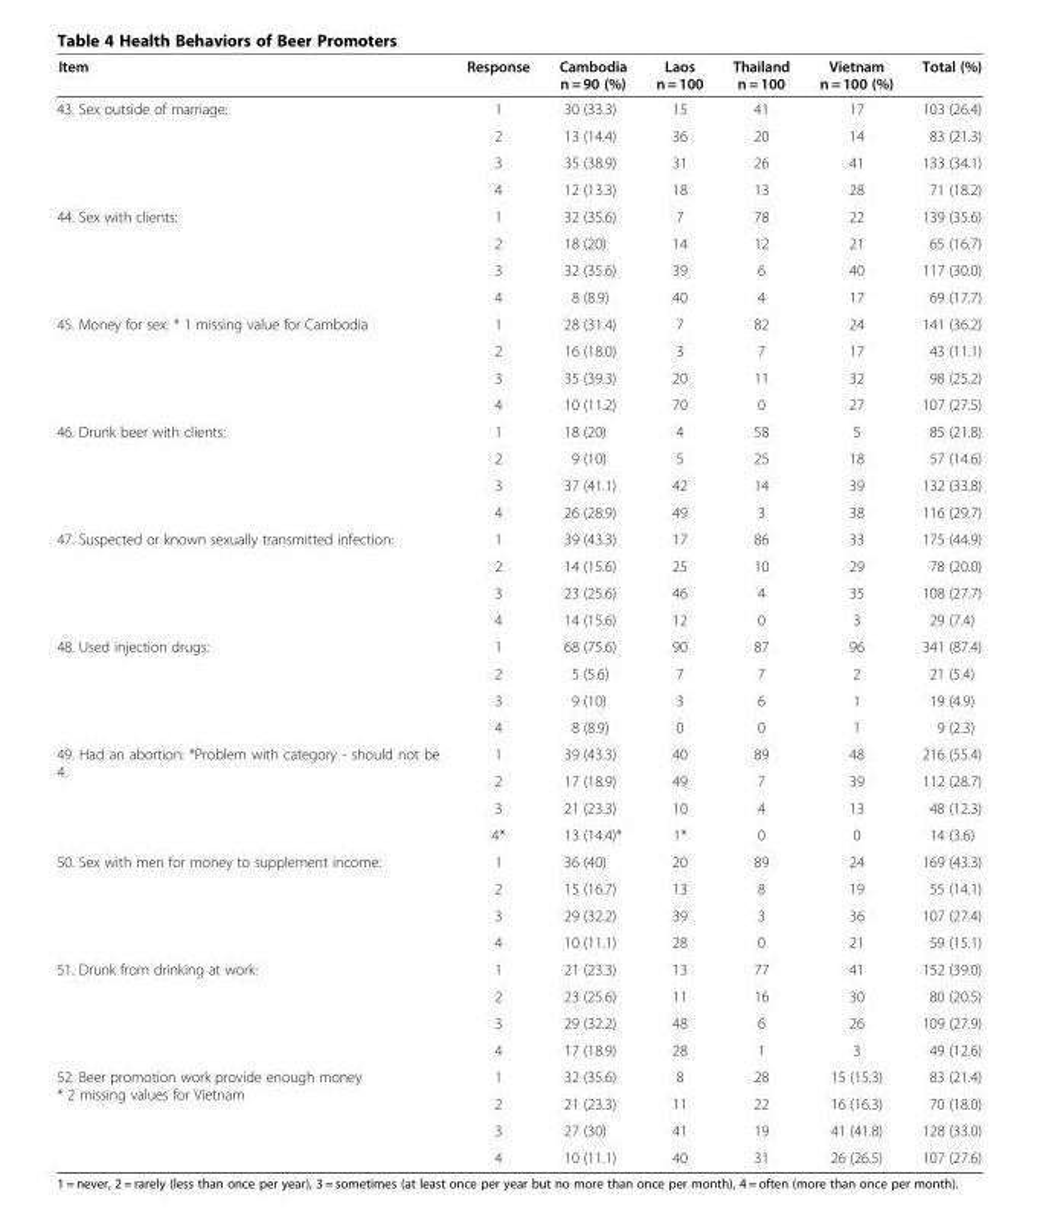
<table><thead><tr><td>Item</td><td>Response</td><td>Cambodia n = 90 (%)</td><td>Laos n = 100</td><td>Thailand n = 100</td><td>Vietnam n = 100 (%)</td><td>Total (%)</td></tr></thead><tbody><tr><td rowspan="4">43. Sex outside of marriage:</td><td>1</td><td>30 (33.3)</td><td>15</td><td>41</td><td>17</td><td>103 (26.4)</td></tr><tr><td>2</td><td>13 (14.4)</td><td>36</td><td>20</td><td>14</td><td>83 (21.3)</td></tr><tr><td>3</td><td>35 (38.9)</td><td>31</td><td>26</td><td>41</td><td>133 (34.1)</td></tr><tr><td>4</td><td>12 (13.3)</td><td>18</td><td>13</td><td>28</td><td>71 (18.2)</td></tr><tr><td rowspan="4">44. Sex with clients:</td><td>1</td><td>32 (35.6)</td><td>7</td><td>78</td><td>22</td><td>139 (35.6)</td></tr><tr><td>2</td><td>18 (20)</td><td>14</td><td>12</td><td>21</td><td>65 (16.7)</td></tr><tr><td>3</td><td>32 (35.6)</td><td>39</td><td>6</td><td>40</td><td>117 (30.0)</td></tr><tr><td>4</td><td>8 (8.9)</td><td>40</td><td>4</td><td>17</td><td>69 (17.7)</td></tr><tr><td rowspan="4">45. Money for sex: * 1 missing value for Cambodia</td><td>1</td><td>28 (31.4)</td><td>7</td><td>82</td><td>24</td><td>141 (36.2)</td></tr><tr><td>2</td><td>16 (18.0)</td><td>3</td><td>7</td><td>17</td><td>43 (11.1)</td></tr><tr><td>3</td><td>35 (39.3)</td><td>20</td><td>11</td><td>32</td><td>98 (25.2)</td></tr><tr><td>4</td><td>10 (11.2)</td><td>70</td><td>0</td><td>27</td><td>107 (27.5)</td></tr><tr><td rowspan="4">46. Drunk beer with clients:</td><td>1</td><td>18 (20)</td><td>4</td><td>58</td><td>5</td><td>85 (21.8)</td></tr><tr><td>2</td><td>9 (10)</td><td>5</td><td>25</td><td>18</td><td>57 (14.6)</td></tr><tr><td>3</td><td>37 (41.1)</td><td>42</td><td>14</td><td>39</td><td>132 (33.8)</td></tr><tr><td>4</td><td>26 (28.9)</td><td>49</td><td>3</td><td>38</td><td>116 (29.7)</td></tr><tr><td rowspan="4">47. Suspected or known sexually transmitted infection:</td><td>1</td><td>39 (43.3)</td><td>17</td><td>86</td><td>33</td><td>175 (44.9)</td></tr><tr><td>2</td><td>14 (15.6)</td><td>25</td><td>10</td><td>29</td><td>78 (20.0)</td></tr><tr><td>3</td><td>23 (25.6)</td><td>46</td><td>4</td><td>35</td><td>108 (27.7)</td></tr><tr><td>4</td><td>14 (15.6)</td><td>12</td><td>0</td><td>3</td><td>29 (7.4)</td></tr><tr><td rowspan="4">48. Used injection drugs:</td><td>1</td><td>68 (75.6)</td><td>90</td><td>87</td><td>96</td><td>341 (87.4)</td></tr><tr><td>2</td><td>5 (5.6)</td><td>7</td><td>7</td><td>2</td><td>21 (5.4)</td></tr><tr><td>3</td><td>9 (10)</td><td>3</td><td>6</td><td>1</td><td>19 (4.9)</td></tr><tr><td>4</td><td>8 (8.9)</td><td>0</td><td>0</td><td>1</td><td>9 (2.3)</td></tr><tr><td rowspan="4">49. Had an abortion: *Problem with category - should not be 4.</td><td>1</td><td>39 (43.3)</td><td>40</td><td>89</td><td>48</td><td>216 (55.4)</td></tr><tr><td>2</td><td>17 (18.9)</td><td>49</td><td>7</td><td>39</td><td>112 (28.7)</td></tr><tr><td>3</td><td>21 (23.3)</td><td>10</td><td>4</td><td>13</td><td>48 (12.3)</td></tr><tr><td>4*</td><td>13 (14.4)*</td><td>1*</td><td>0</td><td>0</td><td>14 (3.6)</td></tr><tr><td rowspan="4">50. Sex with men for money to supplement income:</td><td>1</td><td>36 (40)</td><td>20</td><td>89</td><td>24</td><td>169 (43.3)</td></tr><tr><td>2</td><td>15 (16.7)</td><td>13</td><td>8</td><td>19</td><td>55 (14.1)</td></tr><tr><td>3</td><td>29 (32.2)</td><td>39</td><td>3</td><td>36</td><td>107 (27.4)</td></tr><tr><td>4</td><td>10 (11.1)</td><td>28</td><td>0</td><td>21</td><td>59 (15.1)</td></tr><tr><td rowspan="4">51. Drunk from drinking at work:</td><td>1</td><td>21 (23.3)</td><td>13</td><td>77</td><td>41</td><td>152 (39.0)</td></tr><tr><td>2</td><td>23 (25.6)</td><td>11</td><td>16</td><td>30</td><td>80 (20.5)</td></tr><tr><td>3</td><td>29 (32.2)</td><td>48</td><td>6</td><td>26</td><td>109 (27.9)</td></tr><tr><td>4</td><td>17 (18.9)</td><td>28</td><td>1</td><td>3</td><td>49 (12.6)</td></tr><tr><td rowspan="4">52. Beer promotion work provide enough money * 2 missing values for Vietnam</td><td>1</td><td>32 (35.6)</td><td>8</td><td>28</td><td>15 (15.3)</td><td>83 (21.4)</td></tr><tr><td>2</td><td>21 (23.3)</td><td>11</td><td>22</td><td>16 (16.3)</td><td>70 (18.0)</td></tr><tr><td>3</td><td>27 (30)</td><td>41</td><td>19</td><td>41 (41.8)</td><td>128 (33.0)</td></tr><tr><td>4</td><td>10 (11.1)</td><td>40</td><td>31</td><td>26 (26.5)</td><td>107 (27.6)</td></tr></tbody></table>